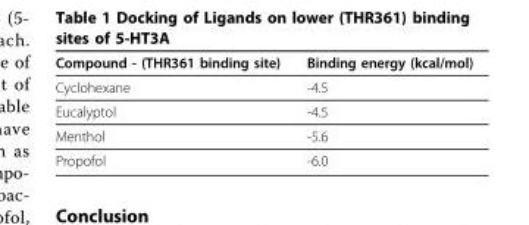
<table><thead><tr><td>Compound - (THR361 binding site)</td><td>Binding energy (kcal/mol)</td></tr></thead><tbody><tr><td>Cyclohexane</td><td>-4.5</td></tr><tr><td>Eucalyptol</td><td>-4.5</td></tr><tr><td>Menthol</td><td>-5.6</td></tr><tr><td>Propofol</td><td>-6.0</td></tr></tbody></table>